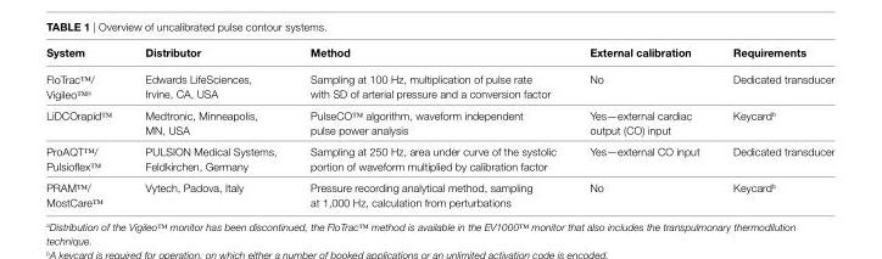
<table><thead><tr><td>System</td><td>Distributor</td><td>Method</td><td>external calibration</td><td>Requirements</td></tr></thead><tbody><tr><td>FloTrac™/ Vigileo™<sup>a</sup></td><td>Edwards LifeSciences, Irvine, CA, USA</td><td>Sampling at 100 Hz, multiplication of pulse rate with SD of arterial pressure and a conversion factor</td><td>No</td><td>Dedicated transducer</td></tr><tr><td>LiDCOrapid™</td><td>Medtronic, Minneapolis, MN, USA</td><td>PulseCO™ algorithm, waveform independent pulse power analysis</td><td>Yes—external cardiac output (CO) input</td><td>Keycard<sup>b</sup></td></tr><tr><td>ProAQT™/ Pulsioflex™</td><td>PULSION Medical Systems, Feldkirchen, Germany</td><td>Sampling at 250 Hz, area under curve of the systolic portion of waveform multiplied by calibration factor</td><td>Yes—external CO input</td><td>Dedicated transducer</td></tr><tr><td>PRAM™/ MostCare™</td><td>Vytech, Padova, Italy</td><td>Pressure recording analytical method, sampling at 1,000 Hz, calculation from perturbations</td><td>No</td><td>Keycard<sup>b</sup></td></tr></tbody></table>